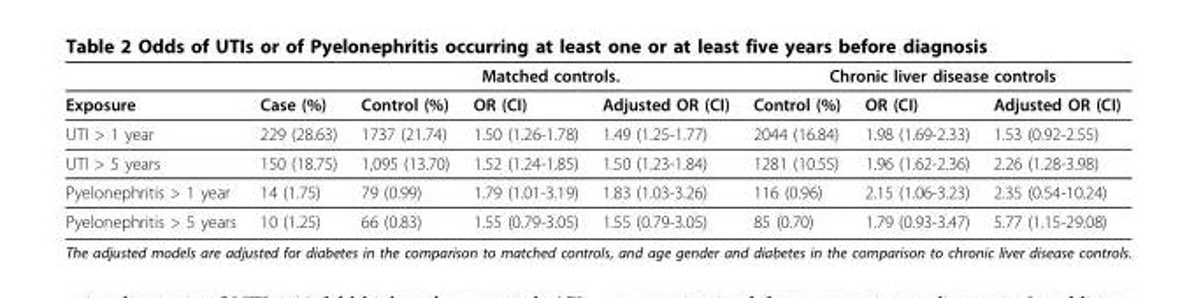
<table><thead><tr><td rowspan="2">Exposure</td><td rowspan="2">Case (%)</td><td colspan="3">Matched controls.</td><td colspan="3">Chronic liver disease controls</td></tr><tr><td>Control (%)</td><td>OR (CI)</td><td>Adjusted OR (CI)</td><td>Control (%)</td><td>OR (CI)</td><td>Adjusted OR (CI)</td></tr></thead><tbody><tr><td>UTI &gt; 1 year</td><td>229 (28.63)</td><td>1737 (21.74)</td><td>1.50 (1.26-1.78)</td><td>1.49 (1.25-1.77)</td><td>2044 (16.84)</td><td>1.98 (1.69-2.33)</td><td>1.53 (0.92-2.55)</td></tr><tr><td>UTI &gt; 5 years</td><td>150 (18.75)</td><td>1,095 (13.70)</td><td>1.52 (1.24-1.85)</td><td>1.50 (1.23-1.84)</td><td>1281 (10.55)</td><td>1.96 (1.62-2.36)</td><td>2.26 (1.28-3.98)</td></tr><tr><td>Pyelonephritis &gt; 1 year</td><td>14 (1.75)</td><td>79 (0.99)</td><td>1.79 (1.01-3.19)</td><td>1.83 (1.03-3.26)</td><td>116 (0.96)</td><td>2.15 (1.06-3.23)</td><td>2.35 (0.54-10.24)</td></tr><tr><td>Pyelonephritis &gt; 5 years</td><td>10 (1.25)</td><td>66 (0.83)</td><td>1.55 (0.79-3.05)</td><td>1.55 (0.79-3.05)</td><td>85 (0.70)</td><td>1.79 (0.93-3.47)</td><td>5.77 (1.15-29.08)</td></tr></tbody></table>